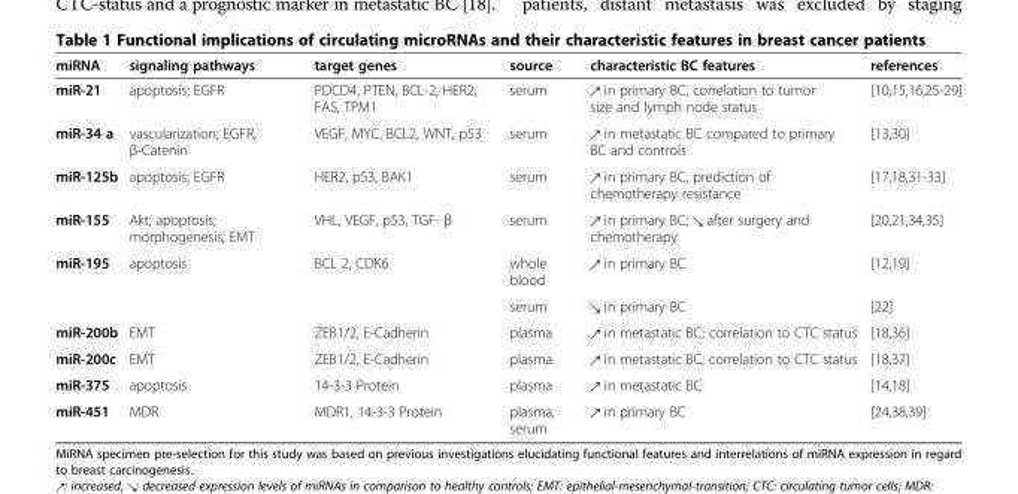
<table><thead><tr><td>miRNA</td><td>signaling pathways</td><td>target genes</td><td>source</td><td>characteristic BC features</td><td>references</td></tr></thead><tbody><tr><td>miR-21</td><td>apoptosis; EGFR</td><td>PDCD4, PTEN, BCL-2, HER2, FAS, TPM1</td><td>serum</td><td>↗ in primary BC, correlation to tumor size and lymph node status</td><td>[10,15,16,25-29]</td></tr><tr><td>miR-34 a</td><td>vascularization; EGFR, β-Catenin</td><td>VEGF, MYC, BCL2, WNT, p53</td><td>serum</td><td>↗ in metastatic BC compared to primary BC and controls</td><td>[13,30]</td></tr><tr><td>miR-125b</td><td>apoptosis; EGFR</td><td>HER2, p53, BAK1</td><td>serum</td><td>↗ in primary BC, prediction of chemotherapy resistance</td><td>[17,18,31-33]</td></tr><tr><td>miR-155</td><td>Akt; apoptosis; morphogenesis; EMT</td><td>VHL, VEGF, p53, TGF- β</td><td>serum</td><td>↗ in primary BC; ↘ after surgery and chemotherapy</td><td>[20,21,34,35]</td></tr><tr><td rowspan="2">miR-195</td><td rowspan="2">apoptosis</td><td rowspan="2">BCL 2, CDK6</td><td>whole blood</td><td>↗ in primary BC</td><td>[12,19]</td></tr><tr><td>serum</td><td>↘ in primary BC</td><td>[22]</td></tr><tr><td>miR-200b</td><td>EMT</td><td>ZEB1/2, E-Cadherin</td><td>plasma</td><td>↗ in metastatic BC; correlation to CTC status</td><td>[18,36]</td></tr><tr><td>miR-200c</td><td>EMT</td><td>ZEB1/2, E-Cadherin</td><td>plasma</td><td>↗ in metastatic BC; correlation to CTC status</td><td>[18,37]</td></tr><tr><td>miR-375</td><td>apoptosis</td><td>14-3-3 Protein</td><td>plasma</td><td>↗ in metastatic BC</td><td>[14,18]</td></tr><tr><td>miR-451</td><td>MDR</td><td>MDR1, 14-3-3 Protein</td><td>plasma, serum</td><td>↗ in primary BC</td><td>[24,38,39]</td></tr></tbody></table>